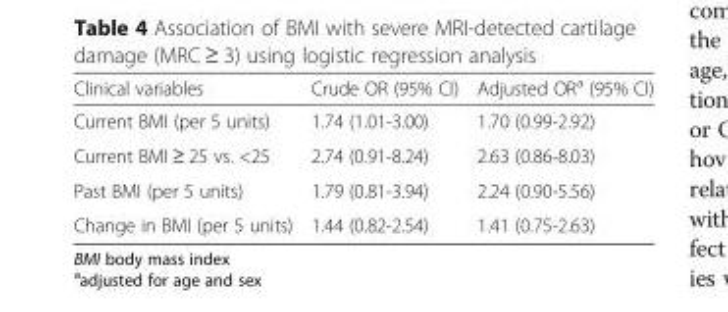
<table><thead><tr><td>Clinical variables</td><td>Crude OR (95% CI)</td><td>Adjusted OR<sup>a</sup> (95% CI)</td></tr></thead><tbody><tr><td>Current BMI (per 5 units)</td><td>1.74 (1.01-3.00)</td><td>1.70 (0.99-2.92)</td></tr><tr><td>Current BMI ≥ 25 vs. &lt;25</td><td>2.74 (0.91-8.24)</td><td>2.63 (0.86-8.03)</td></tr><tr><td>Past BMI (per 5 units)</td><td>1.79 (0.81-3.94)</td><td>2.24 (0.90-5.56)</td></tr><tr><td>Change in BMI (per 5 units)</td><td>1.44 (0.82-2.54)</td><td>1.41 (0.75-2.63)</td></tr></tbody></table>